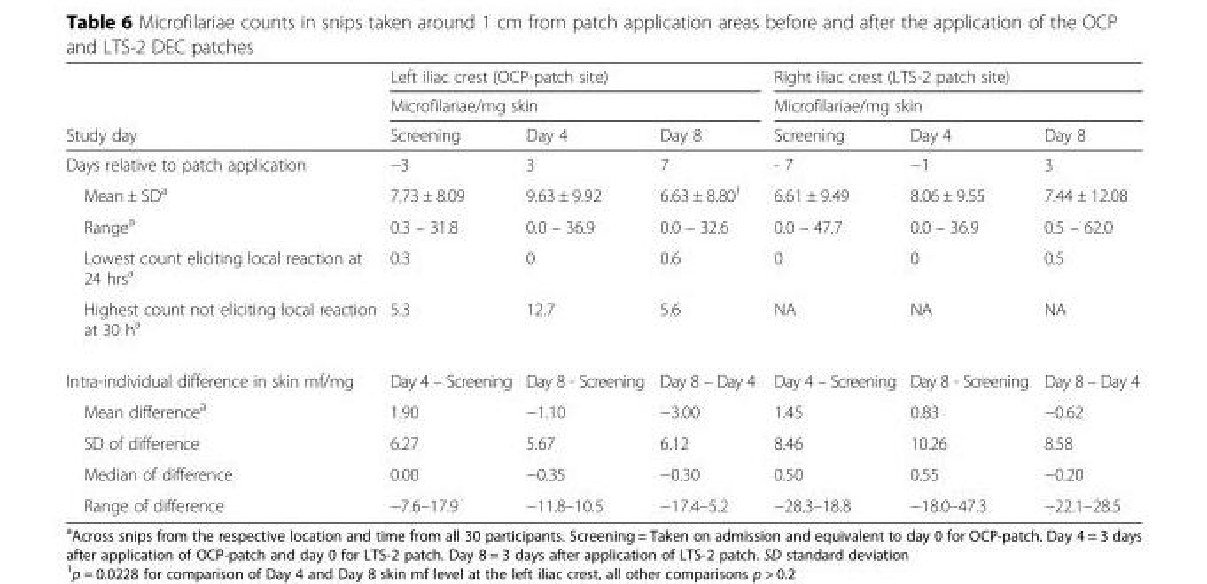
<table><thead><tr><td rowspan="3">Study day</td><td rowspan="2" colspan="3">Left iliac crest (OCP-patch site) Microfilariae/mg skin</td><td rowspan="2" colspan="3">Right iliac crest (LTS-2 patch site) Microfilariae/mg skin</td></tr><tr></tr><tr><td>Screening</td><td>Day 4</td><td>Day 8</td><td>Screening</td><td>Day 4</td><td>Day 8</td></tr></thead><tbody><tr><td>Days relative to patch application</td><td>−3</td><td>3</td><td>7</td><td>- 7</td><td>−1</td><td>3</td></tr><tr><td>Mean ± SD<sup>a</sup></td><td>7.73 ± 8.09</td><td>9.63 ± 9.92</td><td>6.63 ± 8.80<sup>1</sup></td><td>6.61 ± 9.49</td><td>8.06 ± 9.55</td><td>7.44 ± 12.08</td></tr><tr><td>Range<sup>a</sup></td><td>0.3 – 31.8</td><td>0.0 – 36.9</td><td>0.0 – 32.6</td><td>0.0 – 47.7</td><td>0.0 – 36.9</td><td>0.5 – 62.0</td></tr><tr><td>Lowest count eliciting local reaction at 24 hrs<sup>a</sup></td><td>0.3</td><td>0</td><td>0.6</td><td>0</td><td>0</td><td>0.5</td></tr><tr><td>Highest count not eliciting local reaction at 30 h<sup>a</sup></td><td>5.3</td><td>12.7</td><td>5.6</td><td>NA</td><td>NA</td><td>NA</td></tr><tr><td>Intra-individual difference in skin mf/mg</td><td>Day 4 – Screening</td><td>Day 8 - Screening</td><td>Day 8 – Day 4</td><td>Day 4 – Screening</td><td>Day 8 - Screening</td><td>Day 8 – Day 4</td></tr><tr><td>Mean difference<sup>a</sup></td><td>1.90</td><td>−1.10</td><td>−3.00</td><td>1.45</td><td>0.83</td><td>−0.62</td></tr><tr><td>SD of difference</td><td>6.27</td><td>5.67</td><td>6.12</td><td>8.46</td><td>10.26</td><td>8.58</td></tr><tr><td>Median of difference</td><td>0.00</td><td>−0.35</td><td>−0.30</td><td>0.50</td><td>0.55</td><td>−0.20</td></tr><tr><td>Range of difference</td><td>−7.6–17.9</td><td>−11.8–10.5</td><td>−17.4–5.2</td><td>−28.3–18.8</td><td>−18.0–47.3</td><td>−22.1–28.5</td></tr></tbody></table>